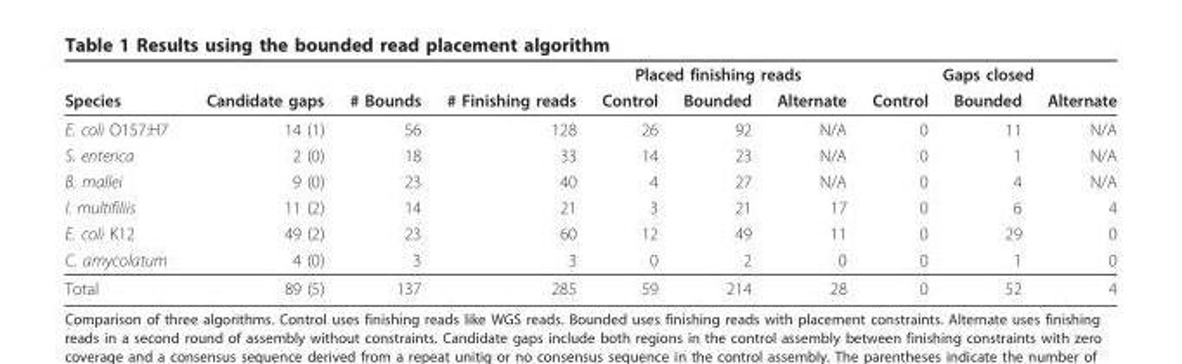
<table><thead><tr><td rowspan="8">Species E. coli O157:H7 S. enterica B. mallei I. multifiliis E. coli K12 C. amycolatum</td><td rowspan="8">Candidate gaps 14 (1) 2 (0) 9 (0) 11 (2) 49 (2) 4 (0)</td><td rowspan="8"># Bounds 56 18 23 14 23 3</td><td rowspan="8"># Finishing reads 128 33 40 21 60 3</td><td colspan="3">Placed finishing reads</td><td colspan="3">Gaps closed</td></tr><tr><td rowspan="7">Control 26 14 4 3 12 0</td><td rowspan="7">Bounded 92 23 27 21 49 2</td><td rowspan="7">Alternate N/A N/A N/A 17 11 0</td><td rowspan="7">Control 0 0 0 0 0 0</td><td rowspan="7">Bounded 11 1 4 6 29 1</td><td rowspan="7">Alternate N/A N/A N/A 4 0 0</td></tr><tr></tr><tr></tr><tr></tr><tr></tr><tr></tr><tr></tr></thead><tbody><tr><td>Total</td><td>89 (5)</td><td>137</td><td>285</td><td>59</td><td>214</td><td>28</td><td>0</td><td>52</td><td>4</td></tr></tbody></table>